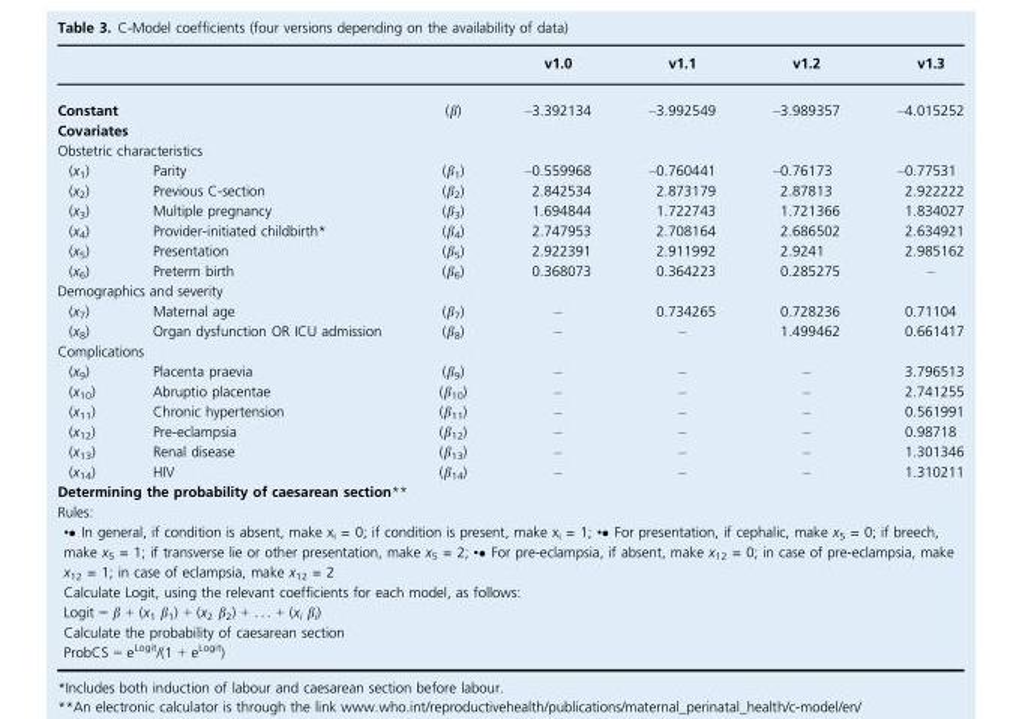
<table><thead><tr><td></td><td></td><td></td><td>v1.0</td><td>v1.1</td><td>v1.2</td><td>v1.3</td></tr></thead><tbody><tr><td colspan="2">Constant</td><td>(β)</td><td>–3.392134</td><td>–3.992549</td><td>–3.989357</td><td>–4.015252</td></tr><tr><td colspan="7">Covariates</td></tr><tr><td colspan="7">Obstetric characteristics</td></tr><tr><td>(x<sub>1</sub>)</td><td>Parity</td><td>(β<sub>1</sub>)</td><td>–0.559968</td><td>–0.760441</td><td>–0.76173</td><td>–0.77531</td></tr><tr><td>(x<sub>2</sub>)</td><td>Previous C-section</td><td>(β<sub>2</sub>)</td><td>2.842534</td><td>2.873179</td><td>2.87813</td><td>2.922222</td></tr><tr><td>(x<sub>3</sub>)</td><td>Multiple pregnancy</td><td>(β<sub>3</sub>)</td><td>1.694844</td><td>1.722743</td><td>1.721366</td><td>1.834027</td></tr><tr><td>(x<sub>4</sub>)</td><td>Provider-initiated childbirth*</td><td>(β<sub>4</sub>)</td><td>2.747953</td><td>2.708164</td><td>2.686502</td><td>2.634921</td></tr><tr><td>(x<sub>5</sub>)</td><td>Presentation</td><td>(β<sub>5</sub>)</td><td>2.922391</td><td>2.911992</td><td>2.9241</td><td>2.985162</td></tr><tr><td>(x<sub>6</sub>)</td><td>Preterm birth</td><td>(β<sub>6</sub>)</td><td>0.368073</td><td>0.364223</td><td>0.285275</td><td>–</td></tr><tr><td colspan="7">Demographics and severity</td></tr><tr><td>(x<sub>7</sub>)</td><td>Maternal age</td><td>(β<sub>7</sub>)</td><td>–</td><td>0.734265</td><td>0.728236</td><td>0.71104</td></tr><tr><td>(x<sub>8</sub>)</td><td>Organ dysfunction OR ICU admission</td><td>(β<sub>8</sub>)</td><td>–</td><td>–</td><td>1.499462</td><td>0.661417</td></tr><tr><td colspan="7">Complications</td></tr><tr><td>(x<sub>9</sub>)</td><td>Placenta praevia</td><td>(β<sub>9</sub>)</td><td>–</td><td>–</td><td>–</td><td>3.796513</td></tr><tr><td>(x<sub>10</sub>)</td><td>Abruptio placentae</td><td>(β<sub>10</sub>)</td><td>–</td><td>–</td><td>–</td><td>2.741255</td></tr><tr><td>(x<sub>11</sub>)</td><td>Chronic hypertension</td><td>(β<sub>11</sub>)</td><td>–</td><td>–</td><td>–</td><td>0.561991</td></tr><tr><td>(x<sub>12</sub>)</td><td>Pre-eclampsia</td><td>(β<sub>12</sub>)</td><td>–</td><td>–</td><td>–</td><td>0.98718</td></tr><tr><td>(x<sub>13</sub>)</td><td>Renal disease</td><td>(β<sub>13</sub>)</td><td>–</td><td>–</td><td>–</td><td>1.301346</td></tr><tr><td>(x<sub>14</sub>)</td><td>HIV</td><td>(β<sub>14</sub>)</td><td>–</td><td>–</td><td>–</td><td>1.310211</td></tr><tr><td colspan="7">Determining the probability of caesarean section**</td></tr><tr><td colspan="7">Rules: •� In general, if condition is absent, make xi = 0; if condition is present, make xi = 1; •� For presentation, if cephalic, make x5 = 0; if breech, make x5 = 1; if transverse lie or other presentation, make x5 = 2; •� For pre-eclampsia, if absent, make x12 = 0; in case of pre-eclampsia, make x12 = 1; in case of eclampsia, make x12 = 2 Calculate Logit, using the relevant coefficients for each model, as follows: Logit = b + (x1 b1) + (x2 b2) + . . . + (xi bi) Calculate the probability of caesarean section ProbCS = eLogit/(1 + eLogit)</td></tr></tbody></table>